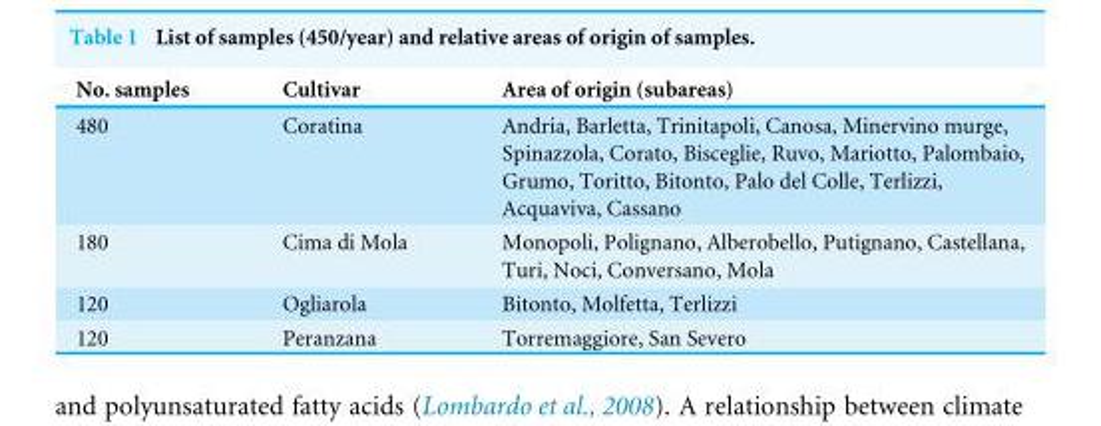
<table><thead><tr><td>No. samples</td><td>Cultivar</td><td>Area of origin (subareas)</td></tr></thead><tbody><tr><td>480</td><td>Coratina</td><td>Andria, Barletta, Trinitapoli, Canosa, Minervino murge, Spinazzola, Corato, Bisceglie, Ruvo, Mariotto, Palombaio, Grumo, Toritto, Bitonto, Palo del Colle, Terlizzi, Acquaviva, Cassano</td></tr><tr><td>180</td><td>Cima di Mola</td><td>Monopoli, Polignano, Alberobello, Putignano, Castellana, Turi, Noci, Conversano, Mola</td></tr><tr><td>120</td><td>Ogliarola</td><td>Bitonto, Molfetta, Terlizzi</td></tr><tr><td>120</td><td>Peranzana</td><td>Torremaggiore, San Severo</td></tr></tbody></table>